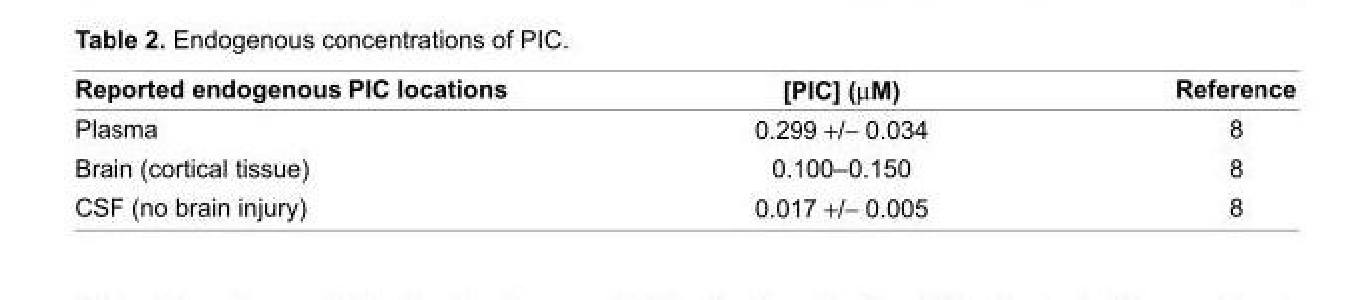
<table><thead><tr><td>Reported endogenous PIC locations</td><td>[PIC] (μM)</td><td>Reference</td></tr></thead><tbody><tr><td>Plasma</td><td>0.299 +/− 0.034</td><td>8</td></tr><tr><td>Brain (cortical tissue)</td><td>0.100–0.150</td><td>8</td></tr><tr><td>CSF (no brain injury)</td><td>0.017 +/− 0.005</td><td>8</td></tr></tbody></table>